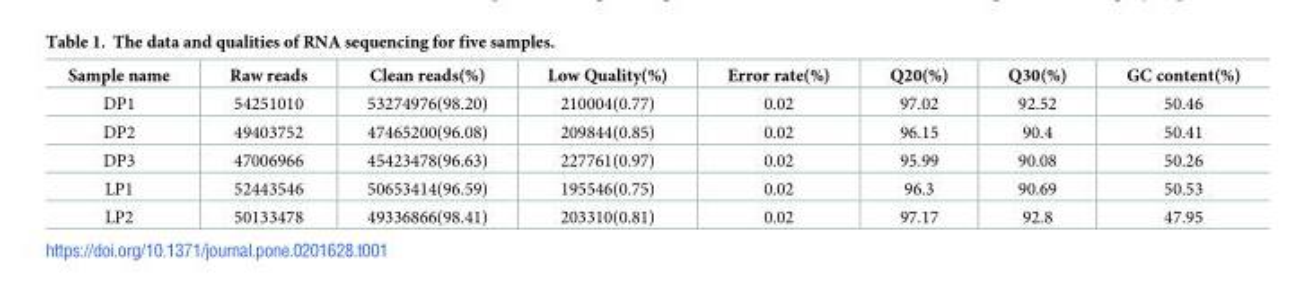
<table><thead><tr><td>Sample name</td><td>Raw reads</td><td>Clean reads(%)</td><td>Low Quality(%)</td><td>Error rate(%)</td><td>Q20(%)</td><td>Q30(%)</td><td>GC content(%)</td></tr></thead><tbody><tr><td>DP1</td><td>54251010</td><td>53274976(98.20)</td><td>210004(0.77)</td><td>0.02</td><td>97.02</td><td>92.52</td><td>50.46</td></tr><tr><td>DP2</td><td>49403752</td><td>47465200(96.08)</td><td>209844(0.85)</td><td>0.02</td><td>96.15</td><td>90.4</td><td>50.41</td></tr><tr><td>DP3</td><td>47006966</td><td>45423478(96.63)</td><td>227761(0.97)</td><td>0.02</td><td>95.99</td><td>90.08</td><td>50.26</td></tr><tr><td>LP1</td><td>52443546</td><td>50653414(96.59)</td><td>195546(0.75)</td><td>0.02</td><td>96.3</td><td>90.69</td><td>50.53</td></tr><tr><td>LP2</td><td>50133478</td><td>49336866(98.41)</td><td>203310(0.81)</td><td>0.02</td><td>97.17</td><td>92.8</td><td>47.95</td></tr></tbody></table>